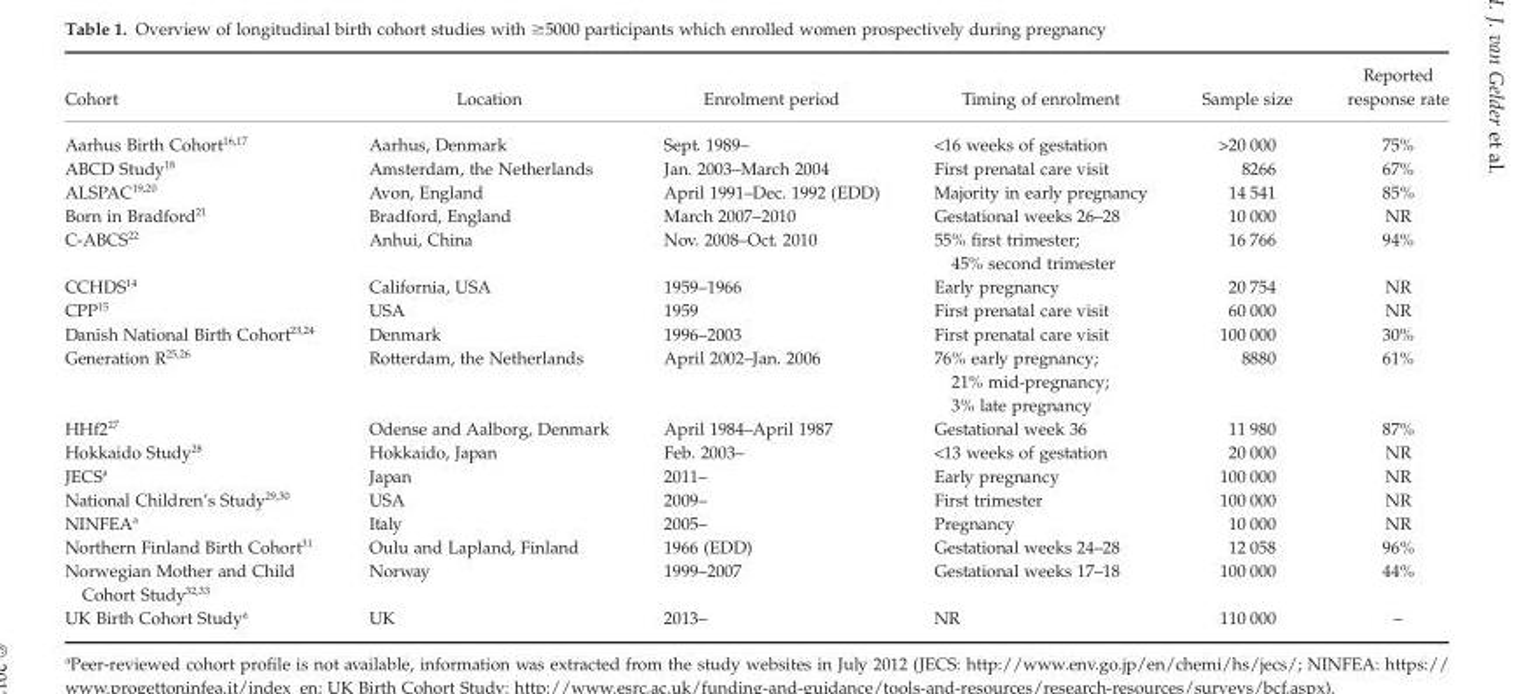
<table><thead><tr><td>Cohort</td><td>Location</td><td>Enrolment period</td><td>Timing of enrolment</td><td>Sample size</td><td>Reported response rate</td></tr></thead><tbody><tr><td>Aarhus Birth Cohort<sup>16</sup>,<sup>17</sup></td><td>Aarhus, Denmark</td><td>Sept. 1989–</td><td>&lt;16 weeks of gestation</td><td>&gt;20 000</td><td>75%</td></tr><tr><td>ABCD Study<sup>18</sup></td><td>Amsterdam, the Netherlands</td><td>Jan. 2003–March 2004</td><td>First prenatal care visit</td><td>8266</td><td>67%</td></tr><tr><td>ALSPAC<sup>19</sup>,<sup>20</sup></td><td>Avon, England</td><td>April 1991–Dec. 1992 (EDD)</td><td>Majority in early pregnancy</td><td>14 541</td><td>85%</td></tr><tr><td>Born in Bradford<sup>21</sup></td><td>Bradford, England</td><td>March 2007–2010</td><td>Gestational weeks 26–28</td><td>10 000</td><td>NR</td></tr><tr><td>C-ABCS<sup>22</sup></td><td>Anhui, China</td><td>Nov. 2008–Oct. 2010</td><td>55% first trimester; 45% second trimester</td><td>16 766</td><td>94%</td></tr><tr><td>CCHDS<sup>14</sup></td><td>California, USA</td><td>1959–1966</td><td>Early pregnancy</td><td>20 754</td><td>NR</td></tr><tr><td>CPP<sup>15</sup></td><td>USA</td><td>1959</td><td>First prenatal care visit</td><td>60 000</td><td>NR</td></tr><tr><td>Danish National Birth Cohort<sup>23</sup>,<sup>24</sup></td><td>Denmark</td><td>1996–2003</td><td>First prenatal care visit</td><td>100 000</td><td>30%</td></tr><tr><td>Generation R<sup>25</sup>,<sup>26</sup></td><td>Rotterdam, the Netherlands</td><td>April 2002–Jan. 2006</td><td>76% early pregnancy; 21% mid-pregnancy; 3% late pregnancy</td><td>8880</td><td>61%</td></tr><tr><td>HHf2<sup>27</sup></td><td>Odense and Aalborg, Denmark</td><td>April 1984–April 1987</td><td>Gestational week 36</td><td>11 980</td><td>87%</td></tr><tr><td>Hokkaido Study<sup>28</sup></td><td>Hokkaido, Japan</td><td>Feb. 2003–</td><td>&lt;13 weeks of gestation</td><td>20 000</td><td>NR</td></tr><tr><td>JECS<sup>a</sup></td><td>Japan</td><td>2011–</td><td>Early pregnancy</td><td>100 000</td><td>NR</td></tr><tr><td>National Children’s Study<sup>29</sup>,<sup>30</sup></td><td>USA</td><td>2009–</td><td>First trimester</td><td>100 000</td><td>NR</td></tr><tr><td>NINFEA<sup>a</sup></td><td>Italy</td><td>2005–</td><td>Pregnancy</td><td>10 000</td><td>NR</td></tr><tr><td>Northern Finland Birth Cohort<sup>31</sup></td><td>Oulu and Lapland, Finland</td><td>1966 (EDD)</td><td>Gestational weeks 24–28</td><td>12 058</td><td>96%</td></tr><tr><td>Norwegian Mother and Child Cohort Study<sup>32</sup>,<sup>33</sup></td><td>Norway</td><td>1999–2007</td><td>Gestational weeks 17–18</td><td>100 000</td><td>44%</td></tr><tr><td>UK Birth Cohort Study<sup>a</sup></td><td>UK</td><td>2013–</td><td>NR</td><td>110 000</td><td>–</td></tr></tbody></table>